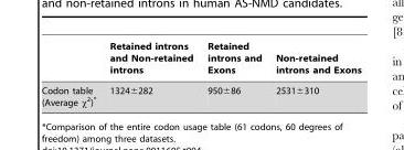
<table><thead><tr><td></td><td>Retained introns and Non-retained introns</td><td>Retained introns and Exons</td><td>Non-retained introns and Exons</td></tr></thead><tbody><tr><td>Codon table (Average χ<sup>2</sup>)*</td><td>1324±282</td><td>950±86</td><td>2531±310</td></tr></tbody></table>